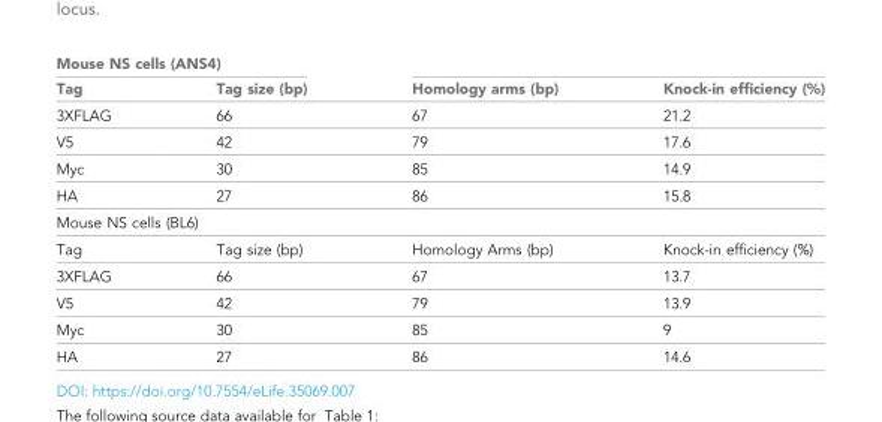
<table><thead><tr><td colspan="2">Mouse NS cells (ANS4)</td><td rowspan="2">Homology arms (bp)</td><td rowspan="2">Knock-in efficiency (%)</td></tr><tr><td>Tag</td><td>Tag size (bp)</td></tr></thead><tbody><tr><td>3XFLAG</td><td>66</td><td>67</td><td>21.2</td></tr><tr><td>V5</td><td>42</td><td>79</td><td>17.6</td></tr><tr><td>Myc</td><td>30</td><td>85</td><td>14.9</td></tr><tr><td>HA</td><td>27</td><td>86</td><td>15.8</td></tr><tr><td colspan="4">Mouse NS cells (BL6)</td></tr><tr><td>Tag</td><td>Tag size (bp)</td><td>Homology Arms (bp)</td><td>Knock-in efficiency (%)</td></tr><tr><td>3XFLAG</td><td>66</td><td>67</td><td>13.7</td></tr><tr><td>V5</td><td>42</td><td>79</td><td>13.9</td></tr><tr><td>Myc</td><td>30</td><td>85</td><td>9</td></tr><tr><td>HA</td><td>27</td><td>86</td><td>14.6</td></tr></tbody></table>